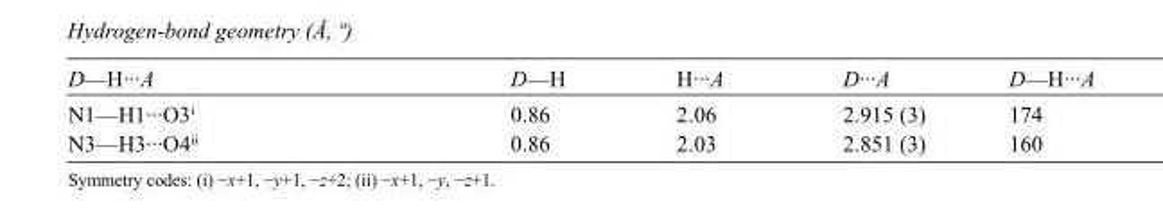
<table><tbody><tr><td>D—H···A</td><td>D—H</td><td>H···A</td><td>D···A</td><td>D—H···A</td></tr><tr><td>N1—H1···O3<sup>i</sup></td><td>0.86</td><td>2.06</td><td>2.915 (3)</td><td>174</td></tr><tr><td>N3—H3···O4<sup>ii</sup></td><td>0.86</td><td>2.03</td><td>2.851 (3)</td><td>160</td></tr></tbody></table>